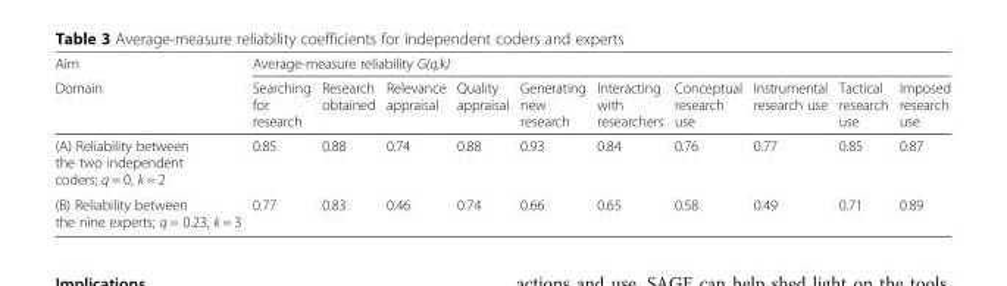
<table><thead><tr><td rowspan="2">Aim Domain</td><td colspan="10">Average-measure reliability G(q,k)</td></tr><tr><td>Searching for research</td><td>Research obtained</td><td>Relevance appraisal</td><td>Quality appraisal</td><td>Generating new research</td><td>Interacting with researchers</td><td>Conceptual research use</td><td>Instrumental research use</td><td>Tactical research use</td><td>Imposed research use</td></tr></thead><tbody><tr><td>(A) Reliability between the two independent coders; q = 0, k = 2</td><td>0.85</td><td>0.88</td><td>0.74</td><td>0.88</td><td>0.93</td><td>0.84</td><td>0.76</td><td>0.77</td><td>0.85</td><td>0.87</td></tr><tr><td>(B) Reliability between the nine experts; q = 0.23, k = 3</td><td>0.77</td><td>0.83</td><td>0.46</td><td>0.74</td><td>0.66</td><td>0.65</td><td>0.58</td><td>0.49</td><td>0.71</td><td>0.89</td></tr></tbody></table>